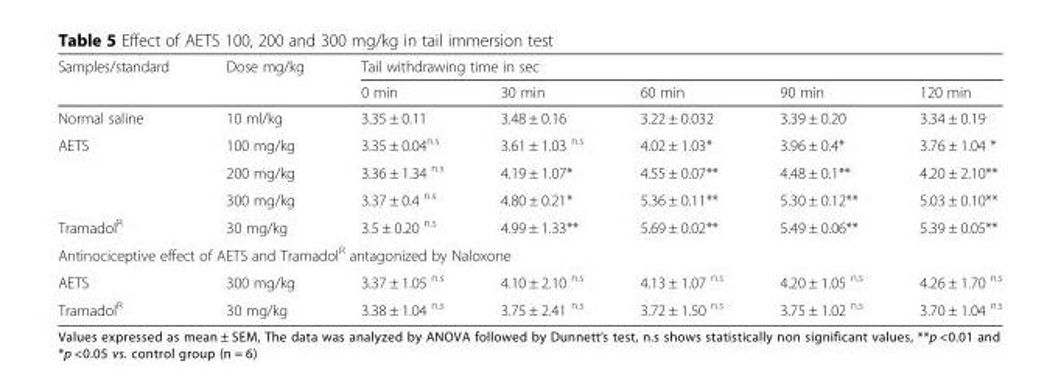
<table><thead><tr><td rowspan="2">Samples/standard</td><td rowspan="2">Dose mg/kg</td><td colspan="5">Tail withdrawing time in sec</td></tr><tr><td>0 min</td><td>30 min</td><td>60 min</td><td>90 min</td><td>120 min</td></tr></thead><tbody><tr><td>Normal saline</td><td>10 ml/kg</td><td>3.35 ± 0.11</td><td>3.48 ± 0.16</td><td>3.22 ± 0.032</td><td>3.39 ± 0.20</td><td>3.34 ± 0.19</td></tr><tr><td rowspan="3">AETS</td><td>100 mg/kg</td><td>3.35 ± 0.04<sup>n.s</sup></td><td>3.61 ± 1.03 <sup>n.s</sup></td><td>4.02 ± 1.03*</td><td>3.96 ± 0.4*</td><td>3.76 ± 1.04 *</td></tr><tr><td>200 mg/kg</td><td>3.36 ± 1.34 <sup>n.s</sup></td><td>4.19 ± 1.07*</td><td>4.55 ± 0.07**</td><td>4.48 ± 0.1**</td><td>4.20 ± 2.10**</td></tr><tr><td>300 mg/kg</td><td>3.37 ± 0.4 <sup>n.s</sup></td><td>4.80 ± 0.21*</td><td>5.36 ± 0.11**</td><td>5.30 ± 0.12**</td><td>5.03 ± 0.10**</td></tr><tr><td>Tramadol<sup>R</sup></td><td>30 mg/kg</td><td>3.5 ± 0.20 <sup>n.s</sup></td><td>4.99 ± 1.33**</td><td>5.69 ± 0.02**</td><td>5.49 ± 0.06**</td><td>5.39 ± 0.05**</td></tr><tr><td colspan="7">Antinociceptive effect of AETS and Tramadol<sup>R</sup> antagonized by Naloxone</td></tr><tr><td>AETS</td><td>300 mg/kg</td><td>3.37 ± 1.05 <sup>n.s</sup></td><td>4.10 ± 2.10 <sup>n.s</sup></td><td>4.13 ± 1.07 <sup>n.s</sup></td><td>4.20 ± 1.05 <sup>n.s</sup></td><td>4.26 ± 1.70 <sup>n.s</sup></td></tr><tr><td>Tramadol<sup>R</sup></td><td>30 mg/kg</td><td>3.38 ± 1.04 <sup>n.s</sup></td><td>3.75 ± 2.41 <sup>n.s</sup></td><td>3.72 ± 1.50 <sup>n.s</sup></td><td>3.75 ± 1.02 <sup>n.s</sup></td><td>3.70 ± 1.04 <sup>n.s</sup></td></tr></tbody></table>